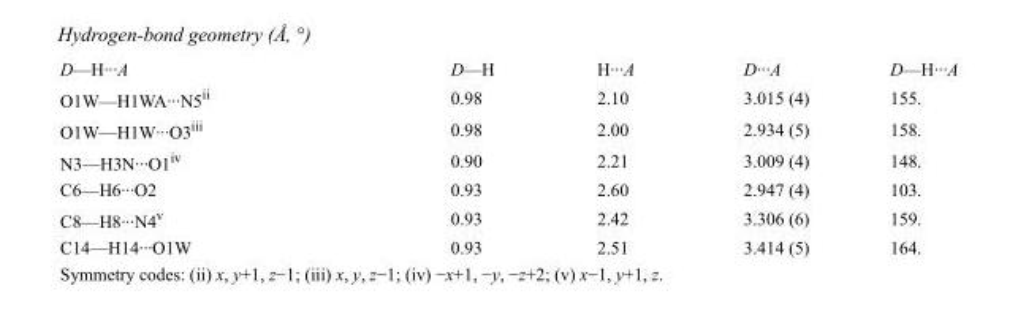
<table><tbody><tr><td>D—H···A</td><td>D—H</td><td>H···A</td><td>D···A</td><td>D—H···A</td></tr><tr><td>O1W—H1WA···N5<sup>ii</sup></td><td>0.98</td><td>2.10</td><td>3.015 (4)</td><td>155.</td></tr><tr><td>O1W—H1W···O3<sup>iii</sup></td><td>0.98</td><td>2.00</td><td>2.934 (5)</td><td>158.</td></tr><tr><td>N3—H3N···O1<sup>iv</sup></td><td>0.90</td><td>2.21</td><td>3.009 (4)</td><td>148.</td></tr><tr><td>C6—H6···O2</td><td>0.93</td><td>2.60</td><td>2.947 (4)</td><td>103.</td></tr><tr><td>C8—H8···N4<sup>v</sup></td><td>0.93</td><td>2.42</td><td>3.306 (6)</td><td>159.</td></tr><tr><td>C14—H14···O1W</td><td>0.93</td><td>2.51</td><td>3.414 (5)</td><td>164.</td></tr></tbody></table>